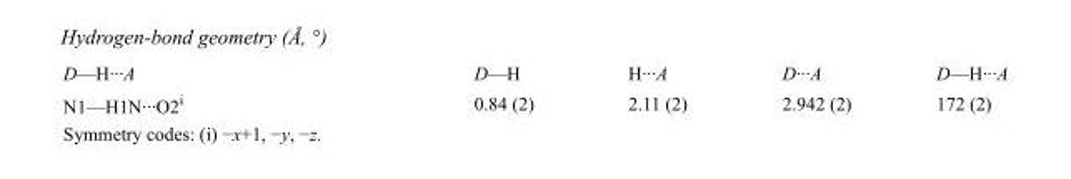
<table><tbody><tr><td>D—H···A</td><td>D—H</td><td>H···A</td><td>D···A</td><td>D—H···A</td></tr><tr><td>N1—H1N···O2<sup>i</sup></td><td>0.84 (2)</td><td>2.11 (2)</td><td>2.942 (2)</td><td>172 (2)</td></tr></tbody></table>